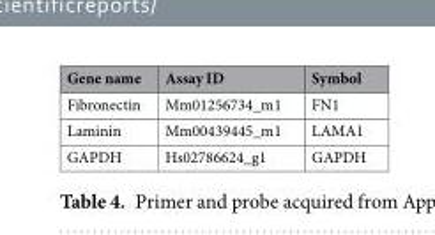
<table><thead><tr><td>Gene name</td><td>Assay ID</td><td>Symbol</td></tr></thead><tbody><tr><td>Fibronectin</td><td>Mm01256734_m1</td><td>FN1</td></tr><tr><td>Laminin</td><td>Mm00439445_m1</td><td>LAMA1</td></tr><tr><td>GAPDH</td><td>Hs02786624_g1</td><td>GAPDH</td></tr></tbody></table>